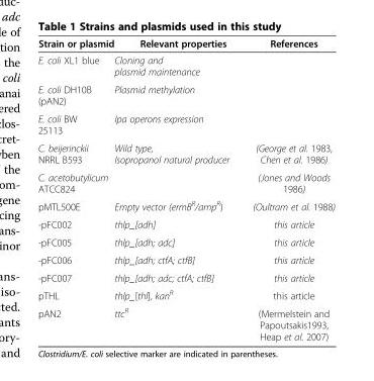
<table><thead><tr><td>Strain or plasmid</td><td>Relevant properties</td><td>References</td></tr></thead><tbody><tr><td>E. coli XL1 blue</td><td>Cloning and plasmid maintenance</td><td></td></tr><tr><td>E. coli DH10B (pAN2)</td><td>Plasmid methylation</td><td></td></tr><tr><td>E. coli BW 25113</td><td>Ipa operons expression</td><td></td></tr><tr><td>C. beijerinckii NRRL B593</td><td>Wild type, Isopropanol natural producer</td><td>(George et al. 1983, Chen et al. 1986)</td></tr><tr><td>C. acetobutylicum ATCC824</td><td></td><td>(Jones and Woods <sup>1986</sup>)</td></tr><tr><td>pMTL500E</td><td>Empty vector (ermB<sup>R</sup>/amp<sup>R</sup>)</td><td>(Oultram et al. <sup>1988</sup>)</td></tr><tr><td>-pFC002</td><td>thlp_[adh]</td><td>this article</td></tr><tr><td>-pFC005</td><td>thlp_[adh; adc]</td><td>this article</td></tr><tr><td>-pFC006</td><td>thlp_[adh; ctfA; ctfB]</td><td>this article</td></tr><tr><td>-pFC007</td><td>thlp_[adh; adc; ctfA; ctfB]</td><td>this article</td></tr><tr><td>pTHL</td><td>thlp_[thl], kan<sup>R</sup></td><td>this article</td></tr><tr><td>pAN2</td><td>ttc<sup>R</sup></td><td>(Mermelstein and Papoutsakis1993, Heap et al. 2007)</td></tr></tbody></table>